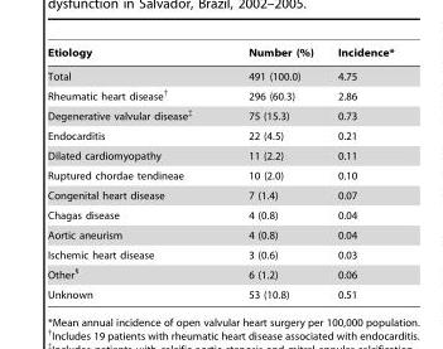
<table><thead><tr><td>Etiology</td><td>Number (%)</td><td>Incidence*</td></tr></thead><tbody><tr><td>Total</td><td>491 (100.0)</td><td>4.75</td></tr><tr><td>Rheumatic heart disease†</td><td>296 (60.3)</td><td>2.86</td></tr><tr><td>Degenerative valvular disease‡</td><td>75 (15.3)</td><td>0.73</td></tr><tr><td>Endocarditis</td><td>22 (4.5)</td><td>0.21</td></tr><tr><td>Dilated cardiomyopathy</td><td>11 (2.2)</td><td>0.11</td></tr><tr><td>Ruptured chordae tendineae</td><td>10 (2.0)</td><td>0.10</td></tr><tr><td>Congenital heart disease</td><td>7 (1.4)</td><td>0.07</td></tr><tr><td>Chagas disease</td><td>4 (0.8)</td><td>0.04</td></tr><tr><td>Aortic aneurism</td><td>4 (0.8)</td><td>0.04</td></tr><tr><td>Ischemic heart disease</td><td>3 (0.6)</td><td>0.03</td></tr><tr><td>Other§</td><td>6 (1.2)</td><td>0.06</td></tr><tr><td>Unknown</td><td>53 (10.8)</td><td>0.51</td></tr></tbody></table>